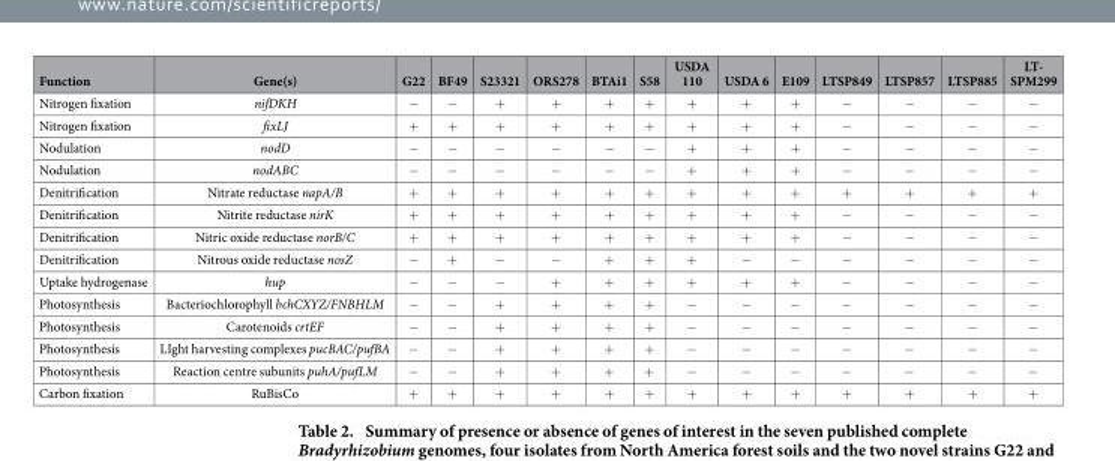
<table><thead><tr><td>Function</td><td>Gene(s)</td><td>G22</td><td>BF49</td><td>S23321</td><td>ORS278</td><td>BTAi1</td><td>S58</td><td>USDA 110</td><td>USDA 6</td><td>E109</td><td>LTSP849</td><td>LTSP857</td><td>LTSP885</td><td>LT- SPM299</td></tr></thead><tbody><tr><td>Nitrogen fixation</td><td>nifDKH</td><td>−</td><td>−</td><td>+</td><td>+</td><td>+</td><td>+</td><td>+</td><td>+</td><td>+</td><td>−</td><td>−</td><td>−</td><td>−</td></tr><tr><td>Nitrogen fixation</td><td>fixLJ</td><td>+</td><td>+</td><td>+</td><td>+</td><td>+</td><td>+</td><td>+</td><td>+</td><td>+</td><td>−</td><td>−</td><td>−</td><td>−</td></tr><tr><td>Nodulation</td><td>nodD</td><td>−</td><td>−</td><td>−</td><td>−</td><td>−</td><td>−</td><td>+</td><td>+</td><td>+</td><td>−</td><td>−</td><td>−</td><td>−</td></tr><tr><td>Nodulation</td><td>nodABC</td><td>−</td><td>−</td><td>−</td><td>−</td><td>−</td><td>−</td><td>+</td><td>+</td><td>+</td><td>−</td><td>−</td><td>−</td><td>−</td></tr><tr><td>Denitrification</td><td>Nitrate reductase napA/B</td><td>+</td><td>+</td><td>+</td><td>+</td><td>+</td><td>+</td><td>+</td><td>+</td><td>+</td><td>+</td><td>+</td><td>+</td><td>+</td></tr><tr><td>Denitrification</td><td>Nitrite reductase nirK</td><td>+</td><td>+</td><td>+</td><td>+</td><td>+</td><td>+</td><td>+</td><td>+</td><td>+</td><td>−</td><td>−</td><td>−</td><td>−</td></tr><tr><td>Denitrification</td><td>Nitric oxide reductase norB/C</td><td>+</td><td>+</td><td>+</td><td>+</td><td>+</td><td>+</td><td>+</td><td>+</td><td>+</td><td>−</td><td>−</td><td>−</td><td>−</td></tr><tr><td>Denitrification</td><td>Nitrous oxide reductase nosZ</td><td>−</td><td>+</td><td>−</td><td>−</td><td>+</td><td>+</td><td>+</td><td>−</td><td>−</td><td>−</td><td>−</td><td>−</td><td>−</td></tr><tr><td>Uptake hydrogenase</td><td>hup</td><td>−</td><td>−</td><td>−</td><td>+</td><td>+</td><td>+</td><td>+</td><td>+</td><td>+</td><td>−</td><td>−</td><td>−</td><td>−</td></tr><tr><td>Photosynthesis</td><td>Bacteriochlorophyll bchCXYZ/FNBHLM</td><td>−</td><td>−</td><td>+</td><td>+</td><td>+</td><td>+</td><td>−</td><td>−</td><td>−</td><td>−</td><td>−</td><td>−</td><td>−</td></tr><tr><td>Photosynthesis</td><td>Carotenoids crtEF</td><td>−</td><td>−</td><td>+</td><td>+</td><td>+</td><td>+</td><td>−</td><td>−</td><td>−</td><td>−</td><td>−</td><td>−</td><td>−</td></tr><tr><td>Photosynthesis</td><td>LIght harvesting complexes pucBAC/pufBA</td><td>−</td><td>−</td><td>+</td><td>+</td><td>+</td><td>+</td><td>−</td><td>−</td><td>−</td><td>−</td><td>−</td><td>−</td><td>−</td></tr><tr><td>Photosynthesis</td><td>Reaction centre subunits puhA/pufLM</td><td>−</td><td>−</td><td>+</td><td>+</td><td>+</td><td>+</td><td>−</td><td>−</td><td>−</td><td>−</td><td>−</td><td>−</td><td>−</td></tr><tr><td>Carbon fixation</td><td>RuBisCo</td><td>+</td><td>+</td><td>+</td><td>+</td><td>+</td><td>+</td><td>+</td><td>+</td><td>+</td><td>+</td><td>+</td><td>+</td><td>+</td></tr></tbody></table>